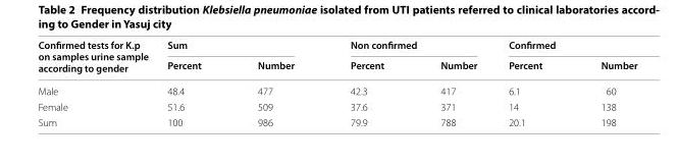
<table><thead><tr><td rowspan="2">Confirmed tests for K.p on samples urine sample according to gender</td><td colspan="2">Sum</td><td colspan="2">Non confirmed</td><td colspan="2">Confirmed</td></tr><tr><td>Percent</td><td>Number</td><td>Percent</td><td>Number</td><td>Percent</td><td>Number</td></tr></thead><tbody><tr><td>Male</td><td>48.4</td><td>477</td><td>42.3</td><td>417</td><td>6.1</td><td>60</td></tr><tr><td>Female</td><td>51.6</td><td>509</td><td>37.6</td><td>371</td><td>14</td><td>138</td></tr><tr><td>Sum</td><td>100</td><td>986</td><td>79.9</td><td>788</td><td>20.1</td><td>198</td></tr></tbody></table>